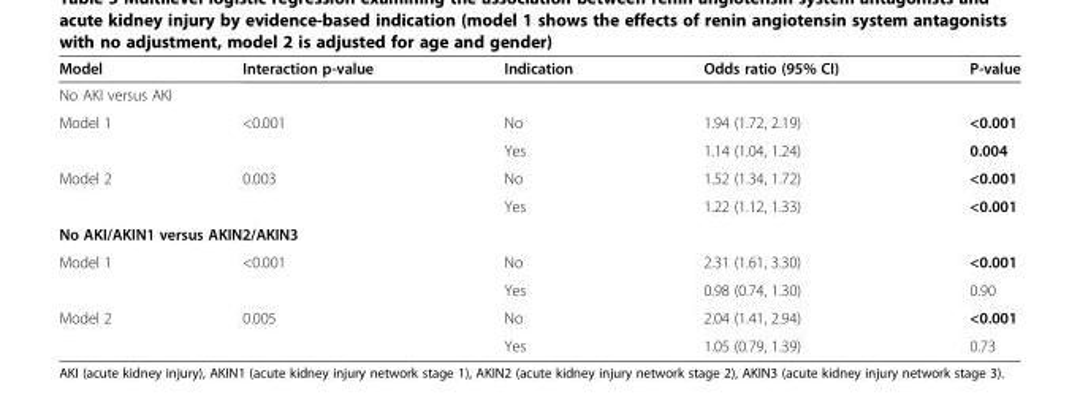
<table><thead><tr><td>Model</td><td>Interaction p-value</td><td>Indication</td><td>Odds ratio (95% CI)</td><td>P-value</td></tr></thead><tbody><tr><td colspan="5">No AKI versus AKI</td></tr><tr><td rowspan="2">Model 1</td><td>&lt;0.001</td><td>No</td><td>1.94 (1.72, 2.19)</td><td>&lt;0.001</td></tr><tr><td></td><td>Yes</td><td>1.14 (1.04, 1.24)</td><td>0.004</td></tr><tr><td rowspan="2">Model 2</td><td>0.003</td><td>No</td><td>1.52 (1.34, 1.72)</td><td>&lt;0.001</td></tr><tr><td></td><td>Yes</td><td>1.22 (1.12, 1.33)</td><td>&lt;0.001</td></tr><tr><td colspan="5">No AKI/AKIN1 versus AKIN2/AKIN3</td></tr><tr><td rowspan="2">Model 1</td><td>&lt;0.001</td><td>No</td><td>2.31 (1.61, 3.30)</td><td>&lt;0.001</td></tr><tr><td></td><td>Yes</td><td>0.98 (0.74, 1.30)</td><td>0.90</td></tr><tr><td rowspan="2">Model 2</td><td>0.005</td><td>No</td><td>2.04 (1.41, 2.94)</td><td>&lt;0.001</td></tr><tr><td></td><td>Yes</td><td>1.05 (0.79, 1.39)</td><td>0.73</td></tr></tbody></table>